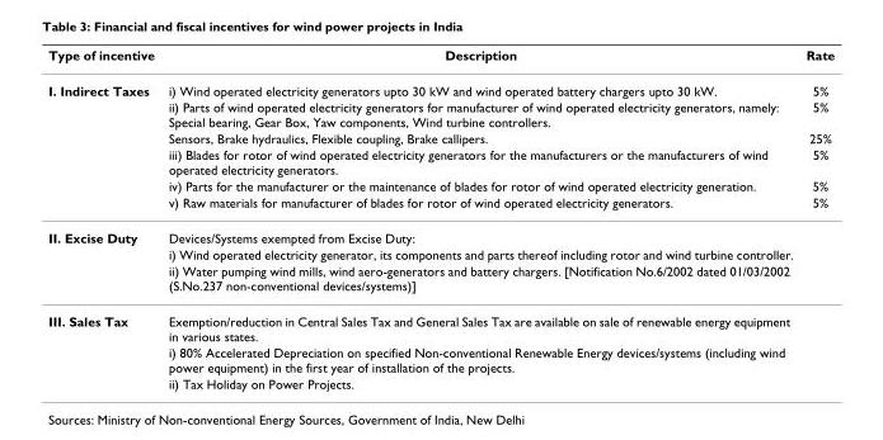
<table><thead><tr><td>Type of incentive</td><td>Description</td><td>Rate</td></tr></thead><tbody><tr><td rowspan="6">I. Indirect Taxes</td><td>i) Wind operated electricity generators upto 30 kW and wind operated battery chargers upto 30 kW.</td><td>5%</td></tr><tr><td>ii) Parts of wind operated electricity generators for manufacturer of wind operated electricity generators, namely: Special bearing, Gear Box, Yaw components, Wind turbine controllers.</td><td>5%</td></tr><tr><td>Sensors, Brake hydraulics, Flexible coupling, Brake callipers.</td><td>25%</td></tr><tr><td>iii) Blades for rotor of wind operated electricity generators for the manufacturers or the manufacturers of wind operated electricity generators.</td><td>5%</td></tr><tr><td>iv) Parts for the manufacturer or the maintenance of blades for rotor of wind operated electricity generation.</td><td>5%</td></tr><tr><td>v) Raw materials for manufacturer of blades for rotor of wind operated electricity generators.</td><td>5%</td></tr><tr><td rowspan="3">II. Excise Duty</td><td>Devices/Systems exempted from Excise Duty:</td><td></td></tr><tr><td>i) Wind operated electricity generator, its components and parts thereof including rotor and wind turbine controller.</td><td></td></tr><tr><td>ii) Water pumping wind mills, wind aero-generators and battery chargers. [Notification No.6/2002 dated 01/03/2002 (S.No.237 non-conventional devices/systems)]</td><td></td></tr><tr><td rowspan="3">III. Sales Tax</td><td>Exemption/reduction in Central Sales Tax and General Sales Tax are available on sale of renewable energy equipment in various states.</td><td></td></tr><tr><td>i) 80% Accelerated Depreciation on specified Non-conventional Renewable Energy devices/systems (including wind power equipment) in the first year of installation of the projects.</td><td></td></tr><tr><td>ii) Tax Holiday on Power Projects.</td><td></td></tr></tbody></table>